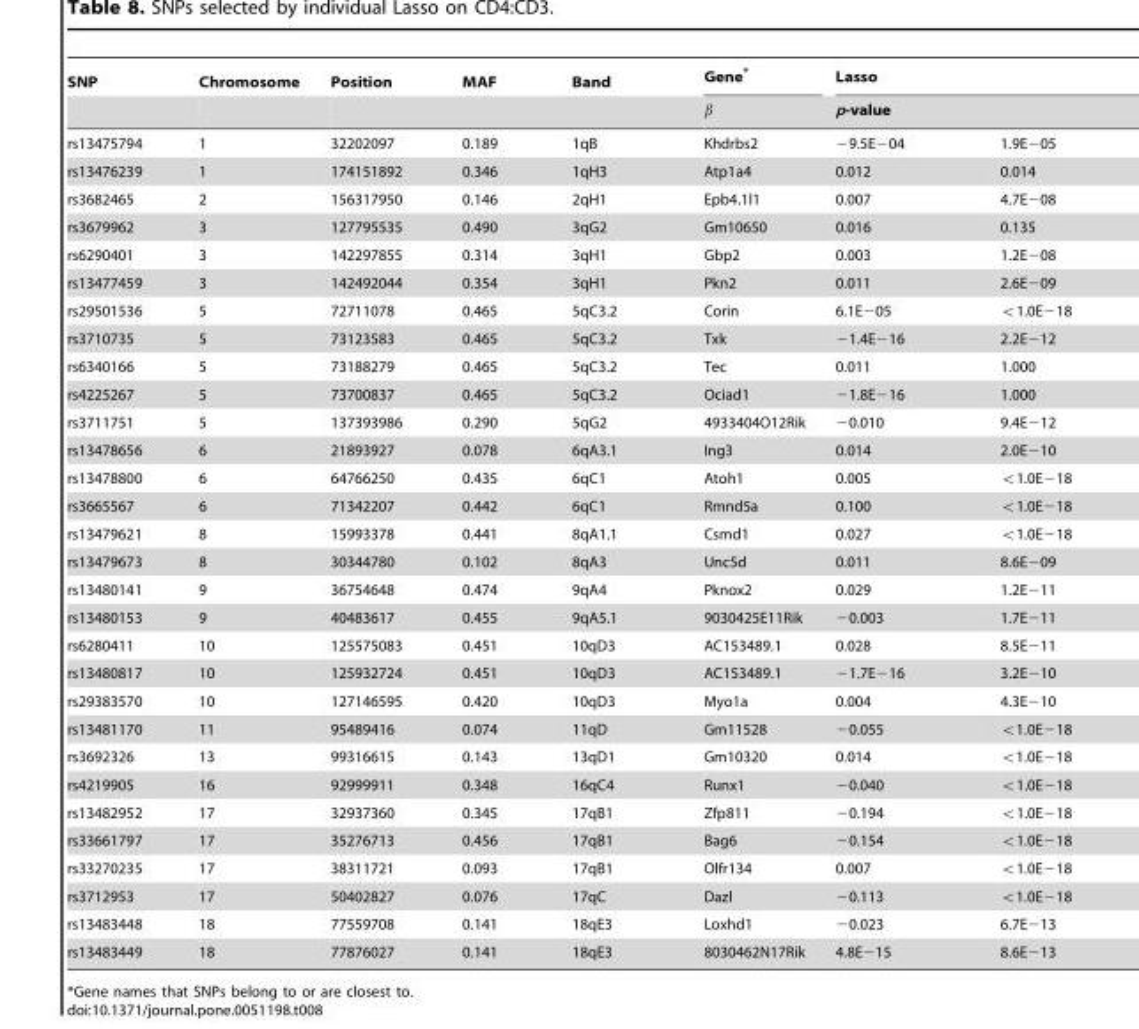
<table><thead><tr><td rowspan="3">SNP rs13475794</td><td rowspan="3">Chromosome 1</td><td rowspan="3">Position 32202097</td><td rowspan="3">MAF 0.189</td><td rowspan="3">Band 1qB</td><td rowspan="3">Gene* b Khdrbs2</td><td rowspan="2" colspan="2">Lasso p-value</td></tr><tr></tr><tr><td>−9.5E−04</td><td>1.9E−05</td></tr></thead><tbody><tr><td>rs13476239</td><td>1</td><td>174151892</td><td>0.346</td><td>1qH3</td><td>Atp1a4</td><td>0.012</td><td>0.014</td></tr><tr><td>rs3682465</td><td>2</td><td>156317950</td><td>0.146</td><td>2qH1</td><td>Epb4.1l1</td><td>0.007</td><td>4.7E−08</td></tr><tr><td>rs3679962</td><td>3</td><td>127795535</td><td>0.490</td><td>3qG2</td><td>Gm10650</td><td>0.016</td><td>0.135</td></tr><tr><td>rs6290401</td><td>3</td><td>142297855</td><td>0.314</td><td>3qH1</td><td>Gbp2</td><td>0.003</td><td>1.2E−08</td></tr><tr><td>rs13477459</td><td>3</td><td>142492044</td><td>0.354</td><td>3qH1</td><td>Pkn2</td><td>0.011</td><td>2.6E−09</td></tr><tr><td>rs29501536</td><td>5</td><td>72711078</td><td>0.465</td><td>5qC3.2</td><td>Corin</td><td>6.1E−05</td><td>v1.0E218</td></tr><tr><td>rs3710735</td><td>5</td><td>73123583</td><td>0.465</td><td>5qC3.2</td><td>Txk</td><td>−1.4E−16</td><td>2.2E−12</td></tr><tr><td>rs6340166</td><td>5</td><td>73188279</td><td>0.465</td><td>5qC3.2</td><td>Tec</td><td>0.011</td><td>1.000</td></tr><tr><td>rs4225267</td><td>5</td><td>73700837</td><td>0.465</td><td>5qC3.2</td><td>Ociad1</td><td>−1.8E−16</td><td>1.000</td></tr><tr><td>rs3711751</td><td>5</td><td>137393986</td><td>0.290</td><td>5qG2</td><td>4933404O12Rik</td><td>−0.010</td><td>9.4E−12</td></tr><tr><td>rs13478656</td><td>6</td><td>21893927</td><td>0.078</td><td>6qA3.1</td><td>Ing3</td><td>0.014</td><td>2.0E−10</td></tr><tr><td>rs13478800</td><td>6</td><td>64766250</td><td>0.435</td><td>6qC1</td><td>Atoh1</td><td>0.005</td><td>v1.0E218</td></tr><tr><td>rs3665567</td><td>6</td><td>71342207</td><td>0.442</td><td>6qC1</td><td>Rmnd5a</td><td>0.100</td><td>v1.0E218</td></tr><tr><td>rs13479621</td><td>8</td><td>15993378</td><td>0.441</td><td>8qA1.1</td><td>Csmd1</td><td>0.027</td><td>v1.0E218</td></tr><tr><td>rs13479673</td><td>8</td><td>30344780</td><td>0.102</td><td>8qA3</td><td>Unc5d</td><td>0.011</td><td>8.6E−09</td></tr><tr><td>rs13480141</td><td>9</td><td>36754648</td><td>0.474</td><td>9qA4</td><td>Pknox2</td><td>0.029</td><td>1.2E−11</td></tr><tr><td>rs13480153</td><td>9</td><td>40483617</td><td>0.455</td><td>9qA5.1</td><td>9030425E11Rik</td><td>−0.003</td><td>1.7E−11</td></tr><tr><td>rs6280411</td><td>10</td><td>125575083</td><td>0.451</td><td>10qD3</td><td>AC153489.1</td><td>0.028</td><td>8.5E−11</td></tr><tr><td>rs13480817</td><td>10</td><td>125932724</td><td>0.451</td><td>10qD3</td><td>AC153489.1</td><td>−1.7E−16</td><td>3.2E−10</td></tr><tr><td>rs29383570</td><td>10</td><td>127146595</td><td>0.420</td><td>10qD3</td><td>Myo1a</td><td>0.004</td><td>4.3E−10</td></tr><tr><td>rs13481170</td><td>11</td><td>95489416</td><td>0.074</td><td>11qD</td><td>Gm11528</td><td>−0.055</td><td>v1.0E218</td></tr><tr><td>rs3692326</td><td>13</td><td>99316615</td><td>0.143</td><td>13qD1</td><td>Gm10320</td><td>0.014</td><td>v1.0E218</td></tr><tr><td>rs4219905</td><td>16</td><td>92999911</td><td>0.348</td><td>16qC4</td><td>Runx1</td><td>−0.040</td><td>v1.0E218</td></tr><tr><td>rs13482952</td><td>17</td><td>32937360</td><td>0.345</td><td>17qB1</td><td>Zfp811</td><td>−0.194</td><td>v1.0E218</td></tr><tr><td>rs33661797</td><td>17</td><td>35276713</td><td>0.456</td><td>17qB1</td><td>Bag6</td><td>−0.154</td><td>v1.0E218</td></tr><tr><td>rs33270235</td><td>17</td><td>38311721</td><td>0.093</td><td>17qB1</td><td>Olfr134</td><td>0.007</td><td>v1.0E218</td></tr><tr><td>rs3712953</td><td>17</td><td>50402827</td><td>0.076</td><td>17qC</td><td>Dazl</td><td>−0.113</td><td>v1.0E218</td></tr><tr><td>rs13483448</td><td>18</td><td>77559708</td><td>0.141</td><td>18qE3</td><td>Loxhd1</td><td>−0.023</td><td>6.7E−13</td></tr><tr><td>rs13483449</td><td>18</td><td>77876027</td><td>0.141</td><td>18qE3</td><td>8030462N17Rik</td><td>4.8E−15</td><td>8.6E−13</td></tr></tbody></table>